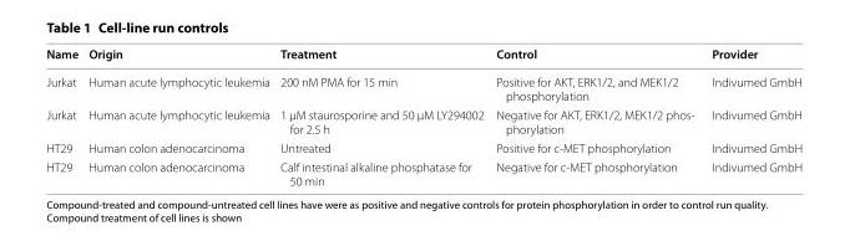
<table><thead><tr><td>Name</td><td>Origin</td><td>Treatment</td><td>Control</td><td>Provider</td></tr></thead><tbody><tr><td>Jurkat</td><td>Human acute lymphocytic leukemia</td><td>200 nM PMA for 15 min</td><td>Positive for AKT, ERK1/2, and MEK1/2 phosphorylation</td><td>Indivumed GmbH</td></tr><tr><td>Jurkat</td><td>Human acute lymphocytic leukemia</td><td>1 µM staurosporine and 50 µM LY294002 for 2.5 h</td><td>Negative for AKT, ERK1/2, MEK1/2 phos- phorylation</td><td>Indivumed GmbH</td></tr><tr><td>HT29</td><td>Human colon adenocarcinoma</td><td>Untreated</td><td>Positive for c-MET phosphorylation</td><td>Indivumed GmbH</td></tr><tr><td>HT29</td><td>Human colon adenocarcinoma</td><td>Calf intestinal alkaline phosphatase for 50 min</td><td>Negative for c-MET phosphorylation</td><td>Indivumed GmbH</td></tr></tbody></table>